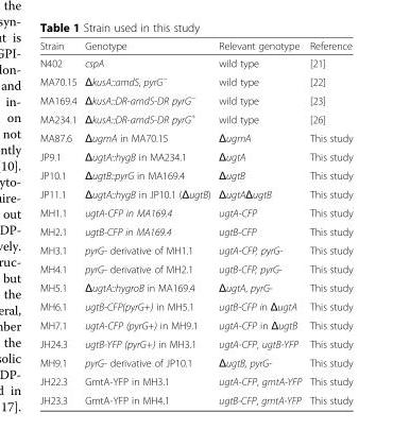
<table><thead><tr><td>Strain</td><td>Genotype</td><td>Relevant genotype</td><td>Reference</td></tr></thead><tbody><tr><td>N402</td><td>cspA</td><td>wild type</td><td>[21]</td></tr><tr><td>MA70.15</td><td>ΔkusA::amdS, pyrG<sup>−</sup></td><td>wild type</td><td>[22]</td></tr><tr><td>MA169.4</td><td>ΔkusA::DR-amdS-DR pyrG<sup>−</sup></td><td>wild type</td><td>[23]</td></tr><tr><td>MA234.1</td><td>ΔkusA::DR-amdS-DR pyrG<sup>+</sup></td><td>wild type</td><td>[26]</td></tr><tr><td>MA87.6</td><td>ΔugmA in MA70.15</td><td>ΔugmA</td><td>This study</td></tr><tr><td>JP9.1</td><td>ΔugtA::hygB in MA234.1</td><td>ΔugtA</td><td>This study</td></tr><tr><td>JP10.1</td><td>ΔugtB::pyrG in MA169.4</td><td>ΔugtB</td><td>This study</td></tr><tr><td>JP11.1</td><td>ΔugtA::hygB in JP10.1 (ΔugtB)</td><td>ΔugtAΔugtB</td><td>This study</td></tr><tr><td>MH1.1</td><td>ugtA-CFP in MA169.4</td><td>ugtA-CFP</td><td>This study</td></tr><tr><td>MH2.1</td><td>ugtB-CFP in MA169.4</td><td>ugtB-CFP</td><td>This study</td></tr><tr><td>MH3.1</td><td>pyrG- derivative of MH1.1</td><td>ugtA-CFP, pyrG-</td><td>This study</td></tr><tr><td>MH4.1</td><td>pyrG- derivative of MH2.1</td><td>ugtB-CFP, pyrG-</td><td>This study</td></tr><tr><td>MH5.1</td><td>ΔugtA::hygroB in MA169.4</td><td>ΔugtA, pyrG-</td><td>This study</td></tr><tr><td>MH6.1</td><td>ugtB-CFP(pyrG+) in MH5.1</td><td>ugtB-CFP in ΔugtA</td><td>This study</td></tr><tr><td>MH7.1</td><td>ugtA-CFP (pyrG+) in MH9.1</td><td>ugtA-CFP in ΔugtB</td><td>This study</td></tr><tr><td>JH24.3</td><td>ugtB-YFP (pyrG+) in MH3.1</td><td>ugtA-CFP, ugtB-YFP</td><td>This study</td></tr><tr><td>MH9.1</td><td>pyrG- derivative of JP10.1</td><td>ΔugtB, pyrG-</td><td>This study</td></tr><tr><td>JH22.3</td><td>GmtA-YFP in MH3.1</td><td>ugtA-CFP, gmtA-YFP</td><td>This study</td></tr><tr><td>JH23.3</td><td>GmtA-YFP in MH4.1</td><td>ugtB-CFP, gmtA-YFP</td><td>This study</td></tr></tbody></table>